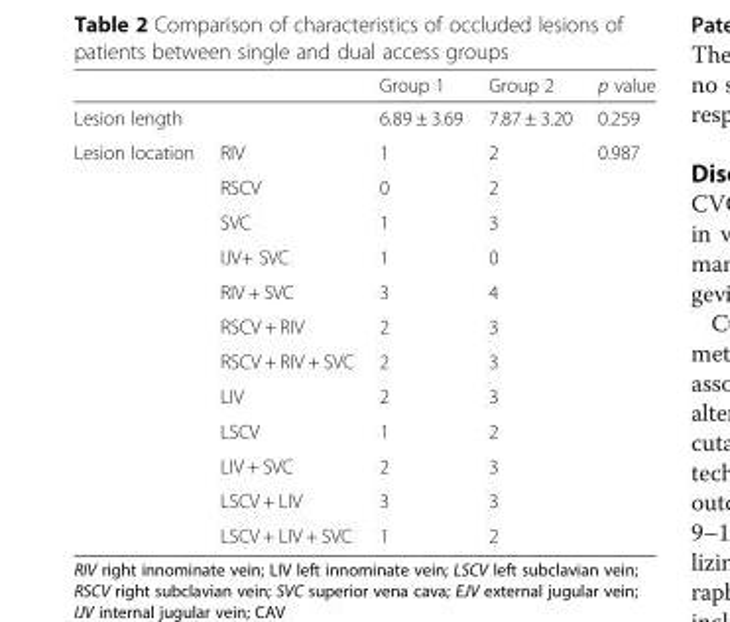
<table><thead><tr><td></td><td></td><td>Group 1</td><td>Group 2</td><td>p value</td></tr></thead><tbody><tr><td>Lesion length</td><td></td><td>6.89 ± 3.69</td><td>7.87 ± 3.20</td><td>0.259</td></tr><tr><td rowspan="12">Lesion location</td><td>RIV</td><td>1</td><td>2</td><td>0.987</td></tr><tr><td>RSCV</td><td>0</td><td>2</td><td></td></tr><tr><td>SVC</td><td>1</td><td>3</td><td></td></tr><tr><td>IJV+ SVC</td><td>1</td><td>0</td><td></td></tr><tr><td>RIV + SVC</td><td>3</td><td>4</td><td></td></tr><tr><td>RSCV + RIV</td><td>2</td><td>3</td><td></td></tr><tr><td>RSCV + RIV + SVC</td><td>2</td><td>3</td><td></td></tr><tr><td>LIV</td><td>2</td><td>3</td><td></td></tr><tr><td>LSCV</td><td>1</td><td>2</td><td></td></tr><tr><td>LIV + SVC</td><td>2</td><td>3</td><td></td></tr><tr><td>LSCV + LIV</td><td>3</td><td>3</td><td></td></tr><tr><td>LSCV + LIV + SVC</td><td>1</td><td>2</td><td></td></tr></tbody></table>